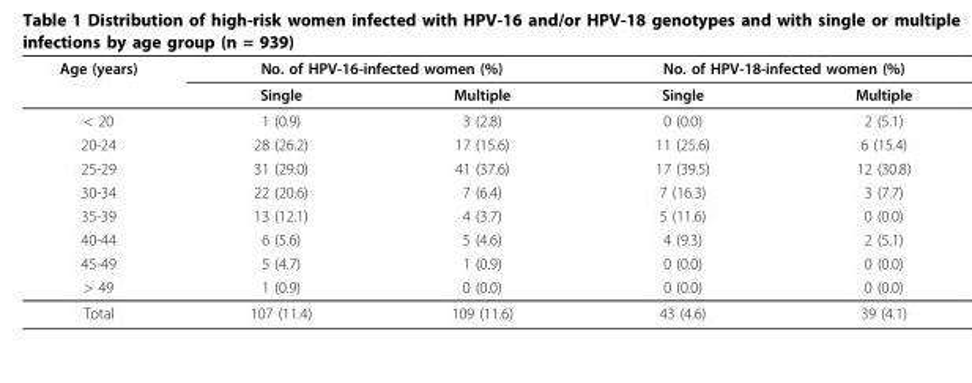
<table><thead><tr><td rowspan="2">Age (years)</td><td colspan="2">No. of HPV-16-infected women (%)</td><td colspan="2">No. of HPV-18-infected women (%)</td></tr><tr><td>Single</td><td>Multiple</td><td>Single</td><td>Multiple</td></tr></thead><tbody><tr><td>&lt; 20</td><td>1 (0.9)</td><td>3 (2.8)</td><td>0 (0.0)</td><td>2 (5.1)</td></tr><tr><td>20-24</td><td>28 (26.2)</td><td>17 (15.6)</td><td>11 (25.6)</td><td>6 (15.4)</td></tr><tr><td>25-29</td><td>31 (29.0)</td><td>41 (37.6)</td><td>17 (39.5)</td><td>12 (30.8)</td></tr><tr><td>30-34</td><td>22 (20.6)</td><td>7 (6.4)</td><td>7 (16.3)</td><td>3 (7.7)</td></tr><tr><td>35-39</td><td>13 (12.1)</td><td>4 (3.7)</td><td>5 (11.6)</td><td>0 (0.0)</td></tr><tr><td>40-44</td><td>6 (5.6)</td><td>5 (4.6)</td><td>4 (9.3)</td><td>2 (5.1)</td></tr><tr><td>45-49</td><td>5 (4.7)</td><td>1 (0.9)</td><td>0 (0.0)</td><td>0 (0.0)</td></tr><tr><td>&gt; 49</td><td>1 (0.9)</td><td>0 (0.0)</td><td>0 (0.0)</td><td>0 (0.0)</td></tr><tr><td>Total</td><td>107 (11.4)</td><td>109 (11.6)</td><td>43 (4.6)</td><td>39 (4.1)</td></tr></tbody></table>